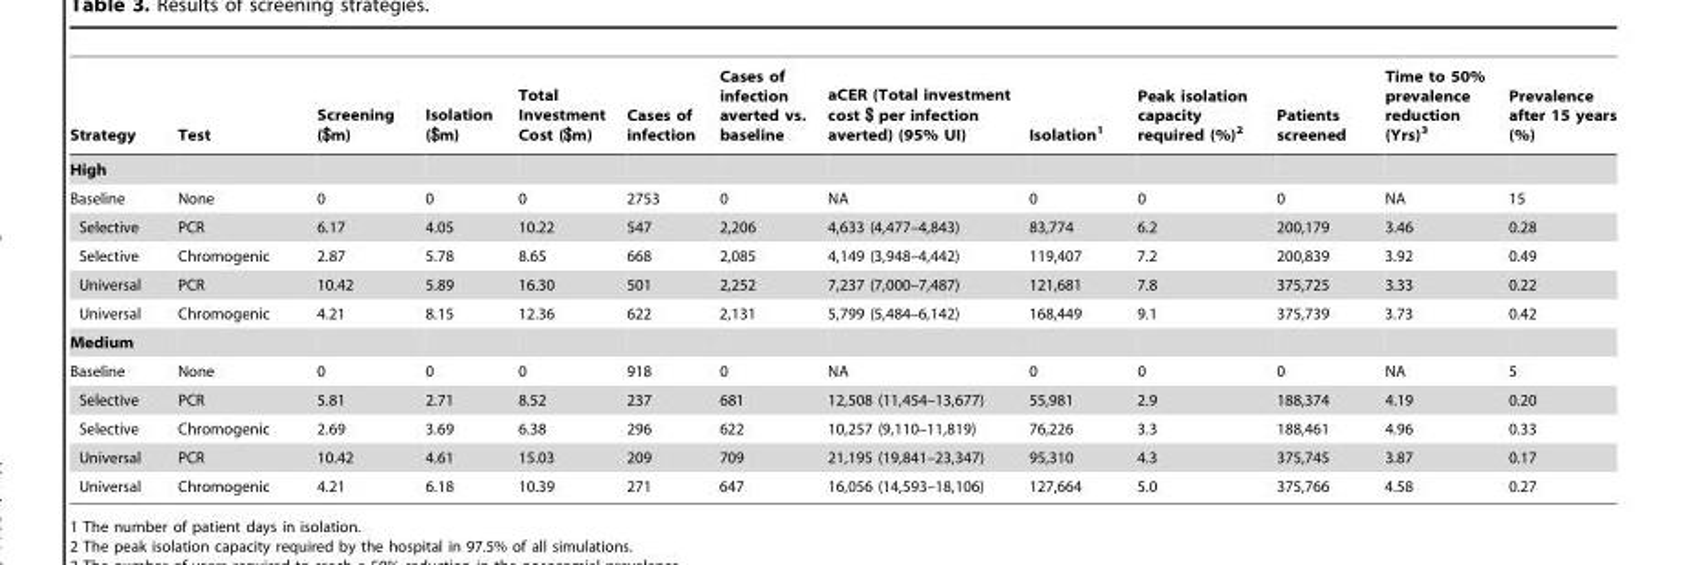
<table><thead><tr><td>Strategy</td><td>Test</td><td>Screening ($m)</td><td>Isolation ($m)</td><td>Total Investment Cost ($m)</td><td>Cases of infection</td><td>Cases of infection averted vs. baseline</td><td>aCER (Total investment cost $ per infection averted) (95% UI)</td><td>Isolation<sup>1</sup></td><td>Peak isolation capacity required (%)<sup>2</sup></td><td>Patients screened</td><td>Time to 50% prevalence reduction (Yrs)<sup>3</sup></td><td>Prevalence after 15 years (%)</td></tr></thead><tbody><tr><td colspan="13">High</td></tr><tr><td>Baseline</td><td>None</td><td>0</td><td>0</td><td>0</td><td>2753</td><td>0</td><td>NA</td><td>0</td><td>0</td><td>0</td><td>NA</td><td>15</td></tr><tr><td>Selective</td><td>PCR</td><td>6.17</td><td>4.05</td><td>10.22</td><td>547</td><td>2,206</td><td>4,633 (4,477–4,843)</td><td>83,774</td><td>6.2</td><td>200,179</td><td>3.46</td><td>0.28</td></tr><tr><td>Selective</td><td>Chromogenic</td><td>2.87</td><td>5.78</td><td>8.65</td><td>668</td><td>2,085</td><td>4,149 (3,948–4,442)</td><td>119,407</td><td>7.2</td><td>200,839</td><td>3.92</td><td>0.49</td></tr><tr><td>Universal</td><td>PCR</td><td>10.42</td><td>5.89</td><td>16.30</td><td>501</td><td>2,252</td><td>7,237 (7,000–7,487)</td><td>121,681</td><td>7.8</td><td>375,725</td><td>3.33</td><td>0.22</td></tr><tr><td>Universal</td><td>Chromogenic</td><td>4.21</td><td>8.15</td><td>12.36</td><td>622</td><td>2,131</td><td>5,799 (5,484–6,142)</td><td>168,449</td><td>9.1</td><td>375,739</td><td>3.73</td><td>0.42</td></tr><tr><td colspan="13">Medium</td></tr><tr><td>Baseline</td><td>None</td><td>0</td><td>0</td><td>0</td><td>918</td><td>0</td><td>NA</td><td>0</td><td>0</td><td>0</td><td>NA</td><td>5</td></tr><tr><td>Selective</td><td>PCR</td><td>5.81</td><td>2.71</td><td>8.52</td><td>237</td><td>681</td><td>12,508 (11,454–13,677)</td><td>55,981</td><td>2.9</td><td>188,374</td><td>4.19</td><td>0.20</td></tr><tr><td>Selective</td><td>Chromogenic</td><td>2.69</td><td>3.69</td><td>6.38</td><td>296</td><td>622</td><td>10,257 (9,110–11,819)</td><td>76,226</td><td>3.3</td><td>188,461</td><td>4.96</td><td>0.33</td></tr><tr><td>Universal</td><td>PCR</td><td>10.42</td><td>4.61</td><td>15.03</td><td>209</td><td>709</td><td>21,195 (19,841–23,347)</td><td>95,310</td><td>4.3</td><td>375,745</td><td>3.87</td><td>0.17</td></tr><tr><td>Universal</td><td>Chromogenic</td><td>4.21</td><td>6.18</td><td>10.39</td><td>271</td><td>647</td><td>16,056 (14,593–18,106)</td><td>127,664</td><td>5.0</td><td>375,766</td><td>4.58</td><td>0.27</td></tr></tbody></table>